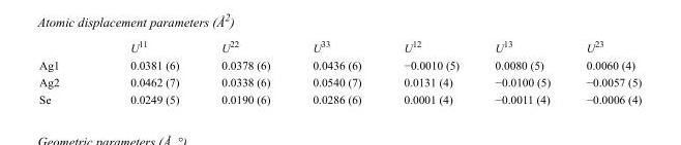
<table><thead><tr><td></td><td>U<sup>11</sup></td><td>U<sup>22</sup></td><td>U<sup>33</sup></td><td>U<sup>12</sup></td><td>U<sup>13</sup></td><td>U<sup>23</sup></td></tr></thead><tbody><tr><td>Ag1</td><td>0.0381 (6)</td><td>0.0378 (6)</td><td>0.0436 (6)</td><td>−0.0010 (5)</td><td>0.0080 (5)</td><td>0.0060 (4)</td></tr><tr><td>Ag2</td><td>0.0462 (7)</td><td>0.0338 (6)</td><td>0.0540 (7)</td><td>0.0131 (4)</td><td>−0.0100 (5)</td><td>−0.0057 (5)</td></tr><tr><td>Se</td><td>0.0249 (5)</td><td>0.0190 (6)</td><td>0.0286 (6)</td><td>0.0001 (4)</td><td>−0.0011 (4)</td><td>−0.0006 (4)</td></tr></tbody></table>